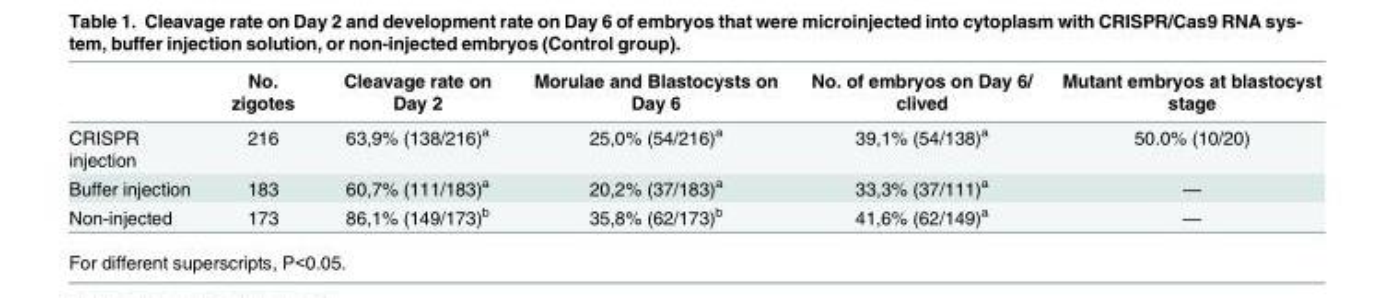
<table><thead><tr><td></td><td>No. zigotes</td><td>Cleavage rate on Day 2</td><td>Morulae and Blastocysts on Day 6</td><td>No. of embryos on Day 6/ clived</td><td>Mutant embryos at blastocyst stage</td></tr></thead><tbody><tr><td>CRISPR injection</td><td>216</td><td>63,9% (138/216)<sup>a</sup></td><td>25,0% (54/216)<sup>a</sup></td><td>39,1% (54/138)<sup>a</sup></td><td>50.0% (10/20)</td></tr><tr><td>Buffer injection</td><td>183</td><td>60,7% (111/183)<sup>a</sup></td><td>20,2% (37/183)<sup>a</sup></td><td>33,3% (37/111)<sup>a</sup></td><td>—</td></tr><tr><td>Non-injected</td><td>173</td><td>86,1% (149/173)<sup>b</sup></td><td>35,8% (62/173)<sup>b</sup></td><td>41,6% (62/149)<sup>a</sup></td><td>—</td></tr></tbody></table>